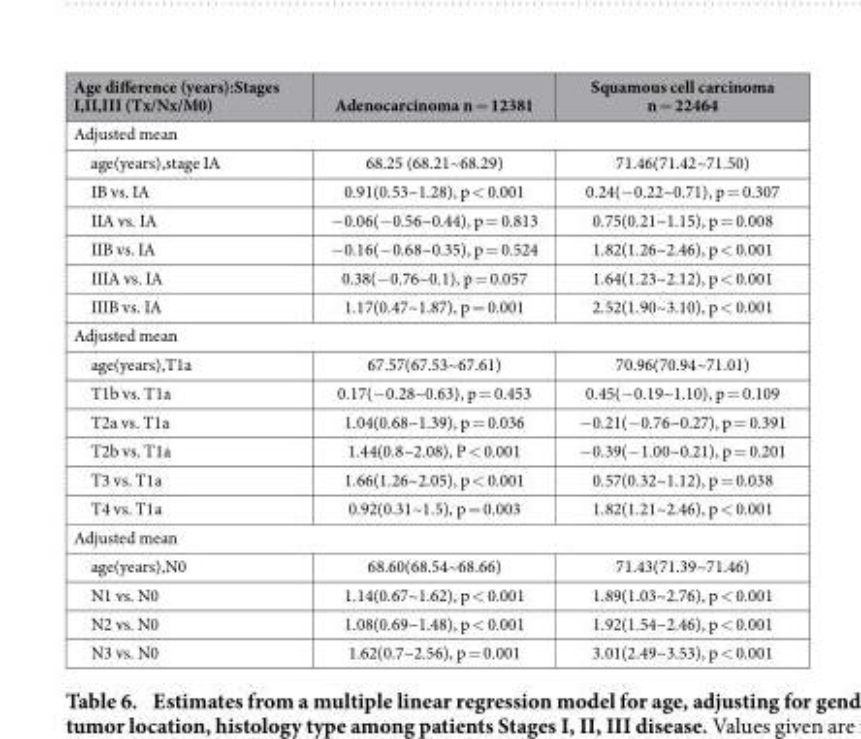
<table><thead><tr><td>Age difference (years):Stages I,II,III (Tx/Nx/M0)</td><td>Adenocarcinoma n = 12381</td><td>Squamous cell carcinoma n = 22464</td></tr></thead><tbody><tr><td colspan="3">Adjusted mean</td></tr><tr><td>age(years),stage IA</td><td>68.25 (68.21~68.29)</td><td>71.46(71.42~71.50)</td></tr><tr><td>IB vs. IA</td><td>0.91(0.53~1.28), p &lt; 0.001</td><td>0.24(− 0.22~0.71), p = 0.307</td></tr><tr><td>IIA vs. IA</td><td>− 0.06(− 0.56~0.44), p = 0.813</td><td>0.75(0.21~1.15), p = 0.008</td></tr><tr><td>IIB vs. IA</td><td>− 0.16(− 0.68~0.35), p = 0.524</td><td>1.82(1.26~2.46), p &lt; 0.001</td></tr><tr><td>IIIA vs. IA</td><td>0.38(− 0.76~0.1), p = 0.057</td><td>1.64(1.23~2.12), p &lt; 0.001</td></tr><tr><td>IIIB vs. IA</td><td>1.17(0.47~1.87), p = 0.001</td><td>2.52(1.90~3.10), p &lt; 0.001</td></tr><tr><td colspan="3">Adjusted mean</td></tr><tr><td>age(years),T1a</td><td>67.57(67.53~67.61)</td><td>70.96(70.94~71.01)</td></tr><tr><td>T1b vs. T1a</td><td>0.17(− 0.28~0.63), p = 0.453</td><td>0.45(− 0.19~1.10), p = 0.109</td></tr><tr><td>T2a vs. T1a</td><td>1.04(0.68~1.39), p = 0.036</td><td>− 0.21(− 0.76~0.27), p = 0.391</td></tr><tr><td>T2b vs. T1a</td><td>1.44(0.8~2.08), P &lt; 0.001</td><td>− 0.39(− 1.00~0.21), p = 0.201</td></tr><tr><td>T3 vs. T1a</td><td>1.66(1.26~2.05), p &lt; 0.001</td><td>0.57(0.32~1.12), p = 0.038</td></tr><tr><td>T4 vs. T1a</td><td>0.92(0.31~1.5), p = 0.003</td><td>1.82(1.21~2.46), p &lt; 0.001</td></tr><tr><td colspan="3">Adjusted mean</td></tr><tr><td>age(years),N0</td><td>68.60(68.54~68.66)</td><td>71.43(71.39~71.46)</td></tr><tr><td>N1 vs. N0</td><td>1.14(0.67~1.62), p &lt; 0.001</td><td>1.89(1.03~2.76), p &lt; 0.001</td></tr><tr><td>N2 vs. N0</td><td>1.08(0.69~1.48), p &lt; 0.001</td><td>1.92(1.54~2.46), p &lt; 0.001</td></tr><tr><td>N3 vs. N0</td><td>1.62(0.7~2.56), p = 0.001</td><td>3.01(2.49~3.53), p &lt; 0.001</td></tr></tbody></table>